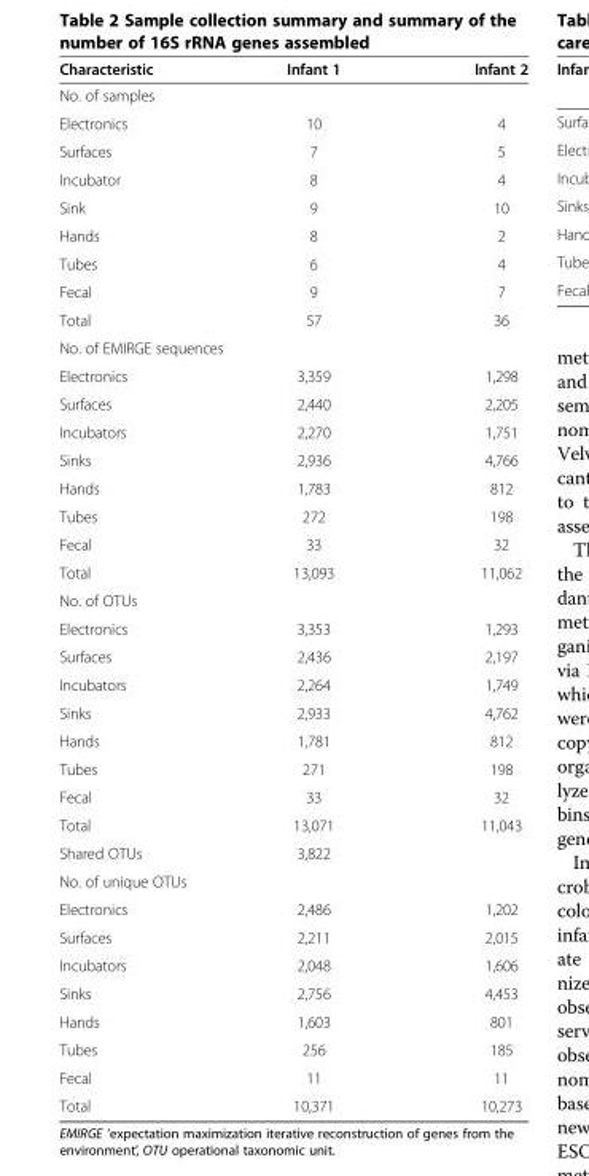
<table><thead><tr><td>Characteristic</td><td>Infant 1</td><td>Infant 2</td></tr></thead><tbody><tr><td colspan="3">No. of samples</td></tr><tr><td>Electronics</td><td>10</td><td>4</td></tr><tr><td>Surfaces</td><td>7</td><td>5</td></tr><tr><td>Incubator</td><td>8</td><td>4</td></tr><tr><td>Sink</td><td>9</td><td>10</td></tr><tr><td>Hands</td><td>8</td><td>2</td></tr><tr><td>Tubes</td><td>6</td><td>4</td></tr><tr><td>Fecal</td><td>9</td><td>7</td></tr><tr><td>Total</td><td>57</td><td>36</td></tr><tr><td colspan="3">No. of EMIRGE sequences</td></tr><tr><td>Electronics</td><td>3,359</td><td>1,298</td></tr><tr><td>Surfaces</td><td>2,440</td><td>2,205</td></tr><tr><td>Incubators</td><td>2,270</td><td>1,751</td></tr><tr><td>Sinks</td><td>2,936</td><td>4,766</td></tr><tr><td>Hands</td><td>1,783</td><td>812</td></tr><tr><td>Tubes</td><td>272</td><td>198</td></tr><tr><td>Fecal</td><td>33</td><td>32</td></tr><tr><td>Total</td><td>13,093</td><td>11,062</td></tr><tr><td colspan="3">No. of OTUs</td></tr><tr><td>Electronics</td><td>3,353</td><td>1,293</td></tr><tr><td>Surfaces</td><td>2,436</td><td>2,197</td></tr><tr><td>Incubators</td><td>2,264</td><td>1,749</td></tr><tr><td>Sinks</td><td>2,933</td><td>4,762</td></tr><tr><td>Hands</td><td>1,781</td><td>812</td></tr><tr><td>Tubes</td><td>271</td><td>198</td></tr><tr><td>Fecal</td><td>33</td><td>32</td></tr><tr><td>Total</td><td>13,071</td><td>11,043</td></tr><tr><td>Shared OTUs</td><td>3,822</td><td></td></tr><tr><td colspan="3">No. of unique OTUs</td></tr><tr><td>Electronics</td><td>2,486</td><td>1,202</td></tr><tr><td>Surfaces</td><td>2,211</td><td>2,015</td></tr><tr><td>Incubators</td><td>2,048</td><td>1,606</td></tr><tr><td>Sinks</td><td>2,756</td><td>4,453</td></tr><tr><td>Hands</td><td>1,603</td><td>801</td></tr><tr><td>Tubes</td><td>256</td><td>185</td></tr><tr><td>Fecal</td><td>11</td><td>11</td></tr><tr><td>Total</td><td>10,371</td><td>10,273</td></tr></tbody></table>